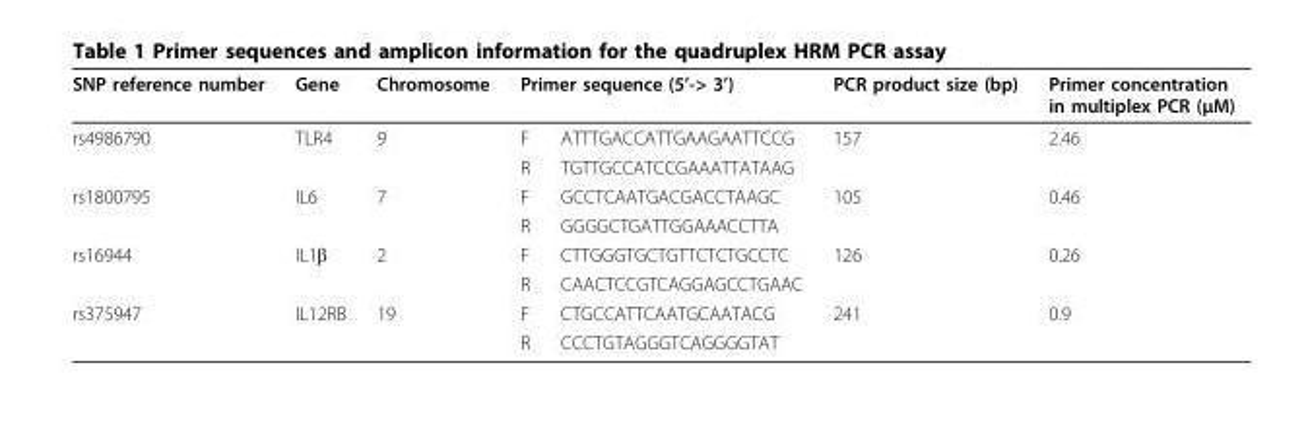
<table><thead><tr><td rowspan="2">SNP reference number rs4986790</td><td rowspan="2">Gene TLR4</td><td rowspan="2">Chromosome 9</td><td colspan="2">Primer sequence (5’-&gt; 3’)</td><td rowspan="2">PCR product size (bp) 157</td><td rowspan="2">Primer concentration in multiplex PCR (μM) 2.46</td></tr><tr><td>F</td><td>ATTTGACCATTGAAGAATTCCG</td></tr></thead><tbody><tr><td></td><td></td><td></td><td>R</td><td>TGTTGCCATCCGAAATTATAAG</td><td></td><td></td></tr><tr><td rowspan="2">rs1800795</td><td>IL6</td><td>7</td><td>F</td><td>GCCTCAATGACGACCTAAGC</td><td>105</td><td>0.46</td></tr><tr><td></td><td></td><td>R</td><td>GGGGCTGATTGGAAACCTTA</td><td></td><td></td></tr><tr><td rowspan="2">rs16944</td><td>IL1β</td><td>2</td><td>F</td><td>CTTGGGTGCTGTTCTCTGCCTC</td><td>126</td><td>0.26</td></tr><tr><td></td><td></td><td>R</td><td>CAACTCCGTCAGGAGCCTGAAC</td><td></td><td></td></tr><tr><td rowspan="2">rs375947</td><td>IL12RB</td><td>19</td><td>F</td><td>CTGCCATTCAATGCAATACG</td><td>241</td><td>0.9</td></tr><tr><td></td><td></td><td>R</td><td>CCCTGTAGGGTCAGGGGTAT</td><td></td><td></td></tr></tbody></table>